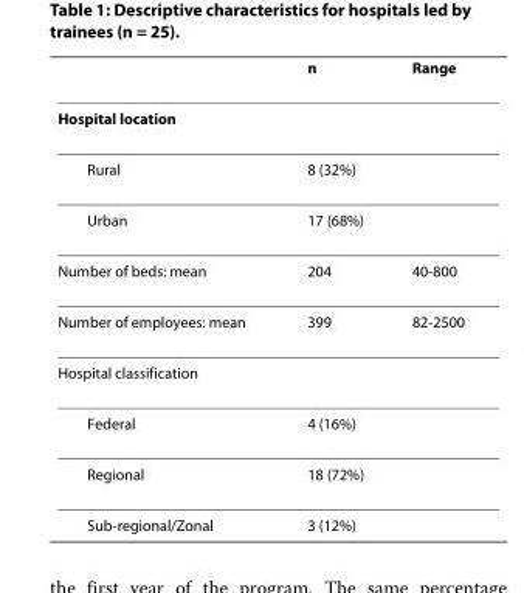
<table><thead><tr><td></td><td>n</td><td>Range</td></tr></thead><tbody><tr><td colspan="3">Hospital location</td></tr><tr><td>Rural</td><td>8 (32%)</td><td></td></tr><tr><td>Urban</td><td>17 (68%)</td><td></td></tr><tr><td>Number of beds: mean</td><td>204</td><td>40-800</td></tr><tr><td>Number of employees: mean</td><td>399</td><td>82-2500</td></tr><tr><td colspan="3">Hospital classification</td></tr><tr><td>Federal</td><td>4 (16%)</td><td></td></tr><tr><td>Regional</td><td>18 (72%)</td><td></td></tr><tr><td>Sub-regional/Zonal</td><td>3 (12%)</td><td></td></tr></tbody></table>